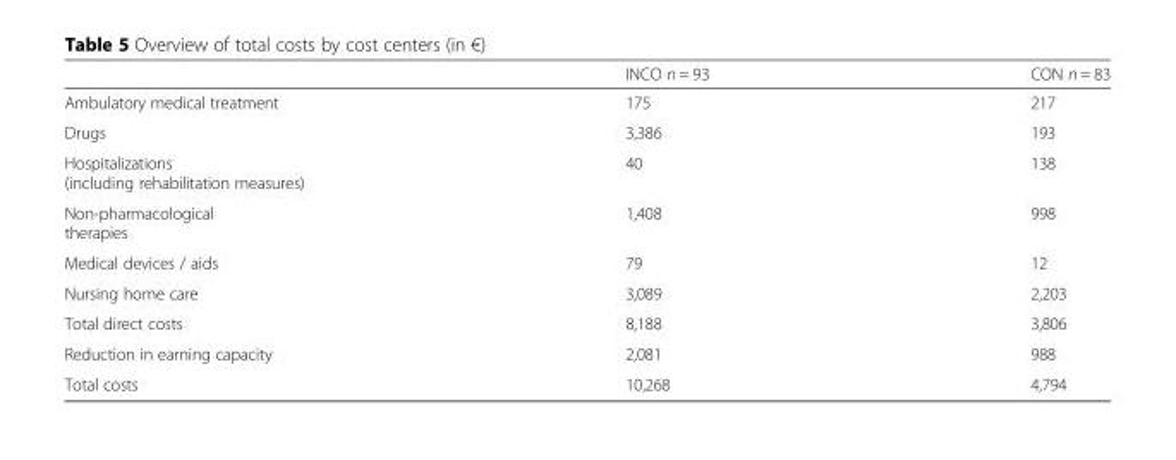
<table><thead><tr><td></td><td>INCO n = 93</td><td>CON n = 83</td></tr></thead><tbody><tr><td>Ambulatory medical treatment</td><td>175</td><td>217</td></tr><tr><td>Drugs</td><td>3,386</td><td>193</td></tr><tr><td>Hospitalizations (including rehabilitation measures)</td><td>40</td><td>138</td></tr><tr><td>Non-pharmacological therapies</td><td>1,408</td><td>998</td></tr><tr><td>Medical devices / aids</td><td>79</td><td>12</td></tr><tr><td>Nursing home care</td><td>3,089</td><td>2,203</td></tr><tr><td>Total direct costs</td><td>8,188</td><td>3,806</td></tr><tr><td>Reduction in earning capacity</td><td>2,081</td><td>988</td></tr><tr><td>Total costs</td><td>10,268</td><td>4,794</td></tr></tbody></table>